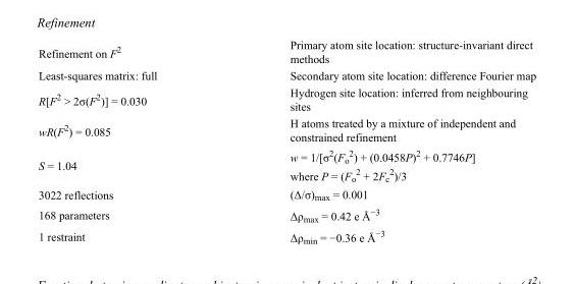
<table><tbody><tr><td>Refinement on F<sup>2</sup></td><td>Primary atom site location: structure-invariant direct methods</td></tr><tr><td>Least-squares matrix: full</td><td>Secondary atom site location: difference Fourier map</td></tr><tr><td>R[F<sup>2</sup> &gt; 2σ(F<sup>2</sup>)] = 0.030</td><td>Hydrogen site location: inferred from neighbouring sites</td></tr><tr><td>wR(F<sup>2</sup>) = 0.085</td><td>H atoms treated by a mixture of independent and constrained refinement</td></tr><tr><td>S = 1.04</td><td>w = 1/[σ<sup>2</sup>(F<sub>o</sub> <sup>2</sup>) + (0.0458P)<sup>2</sup> + 0.7746P] where P = (F<sub>o</sub> <sup>2</sup> + 2F<sub>c</sub> <sup>2</sup>)/3</td></tr><tr><td>3022 reflections</td><td>(Δ/σ)<sub>max</sub> = 0.001</td></tr><tr><td>168 parameters</td><td>Δρ<sub>max</sub> = 0.42 e Å<sup>−3</sup></td></tr><tr><td>1 restraint</td><td>Δρ<sub>min</sub> = −0.36 e Å<sup>−3</sup></td></tr></tbody></table>